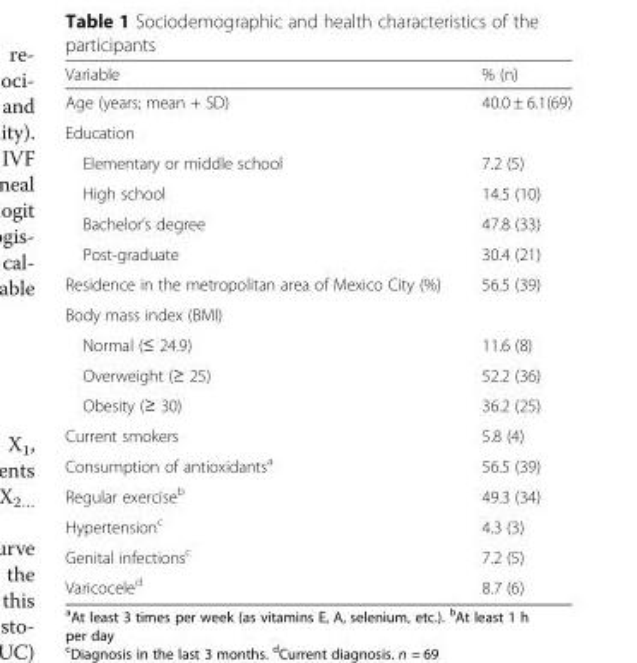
<table><thead><tr><td>Variable</td><td>% (n)</td></tr></thead><tbody><tr><td>Age (years; mean + SD)</td><td>40.0 ± 6.1(69)</td></tr><tr><td colspan="2">Education</td></tr><tr><td>Elementary or middle school</td><td>7.2 (5)</td></tr><tr><td>High school</td><td>14.5 (10)</td></tr><tr><td>Bachelor’s degree</td><td>47.8 (33)</td></tr><tr><td>Post-graduate</td><td>30.4 (21)</td></tr><tr><td>Residence in the metropolitan area of Mexico City (%)</td><td>56.5 (39)</td></tr><tr><td colspan="2">Body mass index (BMI)</td></tr><tr><td>Normal (≤ 24.9)</td><td>11.6 (8)</td></tr><tr><td>Overweight (≥ 25)</td><td>52.2 (36)</td></tr><tr><td>Obesity (≥ 30)</td><td>36.2 (25)</td></tr><tr><td>Current smokers</td><td>5.8 (4)</td></tr><tr><td>Consumption of antioxidants<sup>a</sup></td><td>56.5 (39)</td></tr><tr><td>Regular exercise<sup>b</sup></td><td>49.3 (34)</td></tr><tr><td>Hypertension<sup>c</sup></td><td>4.3 (3)</td></tr><tr><td>Genital infections<sup>c</sup></td><td>7.2 (5)</td></tr><tr><td>Varicocele<sup>d</sup></td><td>8.7 (6)</td></tr></tbody></table>